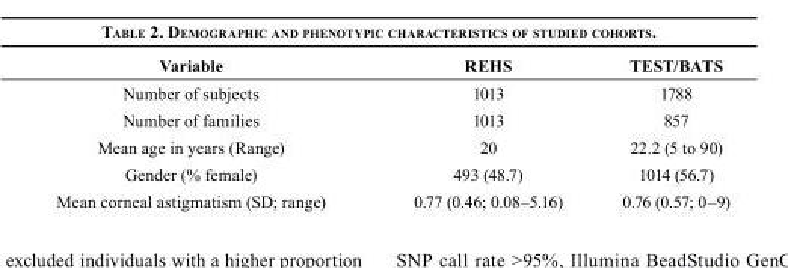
<table><thead><tr><td>Variable</td><td>REHS</td><td>TEST/BATS</td></tr></thead><tbody><tr><td>Number of subjects</td><td>1013</td><td>1788</td></tr><tr><td>Number of families</td><td>1013</td><td>857</td></tr><tr><td>Mean age in years (Range)</td><td>20</td><td>22.2 (5 to 90)</td></tr><tr><td>Gender (% female)</td><td>493 (48.7)</td><td>1014 (56.7)</td></tr><tr><td>Mean corneal astigmatism (SD; range)</td><td>0.77 (0.46; 0.08–5.16)</td><td>0.76 (0.57; 0–9)</td></tr></tbody></table>